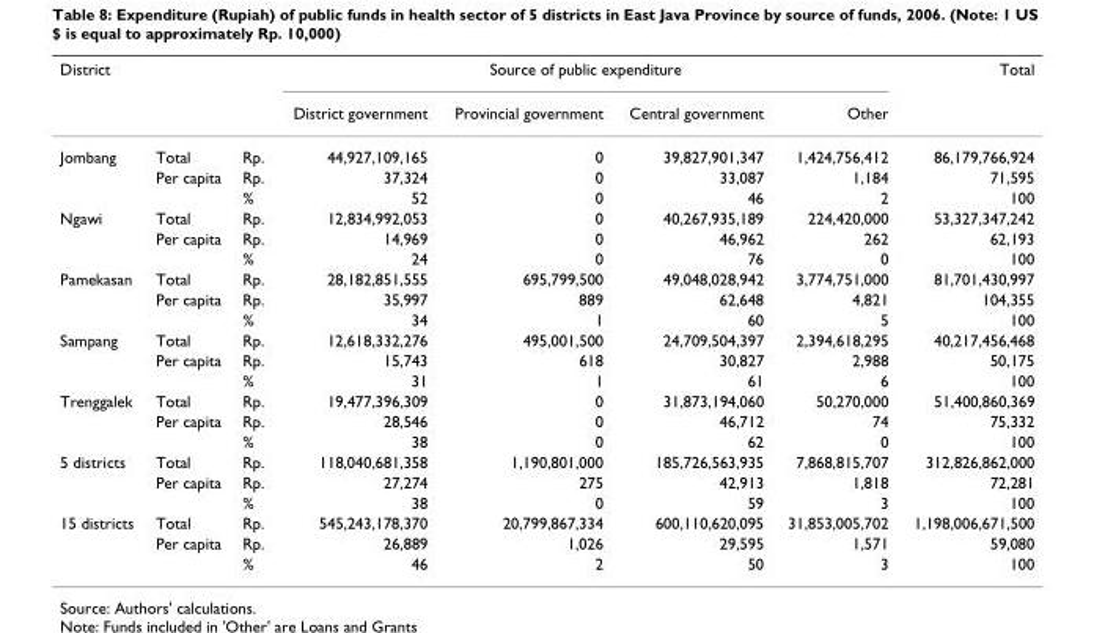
<table><thead><tr><td rowspan="2">District</td><td rowspan="2"></td><td rowspan="2"></td><td colspan="4">Source of public expenditure</td><td rowspan="2">Total</td></tr><tr><td>District government</td><td>Provincial government</td><td>Central government</td><td>Other</td></tr></thead><tbody><tr><td rowspan="3">Jombang</td><td>Total</td><td>Rp.</td><td>44,927,109,165</td><td>0</td><td>39,827,901,347</td><td>1,424,756,412</td><td>86,179,766,924</td></tr><tr><td>Per capita</td><td>Rp.</td><td>37,324</td><td>0</td><td>33,087</td><td>1,184</td><td>71,595</td></tr><tr><td></td><td>%</td><td>52</td><td>0</td><td>46</td><td>2</td><td>100</td></tr><tr><td rowspan="3">Ngawi</td><td>Total</td><td>Rp.</td><td>12,834,992,053</td><td>0</td><td>40,267,935,189</td><td>224,420,000</td><td>53,327,347,242</td></tr><tr><td>Per capita</td><td>Rp.</td><td>14,969</td><td>0</td><td>46,962</td><td>262</td><td>62,193</td></tr><tr><td></td><td>%</td><td>24</td><td>0</td><td>76</td><td>0</td><td>100</td></tr><tr><td rowspan="3">Pamekasan</td><td>Total</td><td>Rp.</td><td>28,182,851,555</td><td>695,799,500</td><td>49,048,028,942</td><td>3,774,751,000</td><td>81,701,430,997</td></tr><tr><td>Per capita</td><td>Rp.</td><td>35,997</td><td>889</td><td>62,648</td><td>4,821</td><td>104,355</td></tr><tr><td></td><td>%</td><td>34</td><td>1</td><td>60</td><td>5</td><td>100</td></tr><tr><td rowspan="3">Sampang</td><td>Total</td><td>Rp.</td><td>12,618,332,276</td><td>495,001,500</td><td>24,709,504,397</td><td>2,394,618,295</td><td>40,217,456,468</td></tr><tr><td>Per capita</td><td>Rp.</td><td>15,743</td><td>618</td><td>30,827</td><td>2,988</td><td>50,175</td></tr><tr><td></td><td>%</td><td>31</td><td>1</td><td>61</td><td>6</td><td>100</td></tr><tr><td rowspan="3">Trenggalek</td><td>Total</td><td>Rp.</td><td>19,477,396,309</td><td>0</td><td>31,873,194,060</td><td>50,270,000</td><td>51,400,860,369</td></tr><tr><td>Per capita</td><td>Rp.</td><td>28,546</td><td>0</td><td>46,712</td><td>74</td><td>75,332</td></tr><tr><td></td><td>%</td><td>38</td><td>0</td><td>62</td><td>0</td><td>100</td></tr><tr><td rowspan="3">5 districts</td><td>Total</td><td>Rp.</td><td>118,040,681,358</td><td>1,190,801,000</td><td>185,726,563,935</td><td>7,868,815,707</td><td>312,826,862,000</td></tr><tr><td>Per capita</td><td>Rp.</td><td>27,274</td><td>275</td><td>42,913</td><td>1,818</td><td>72,281</td></tr><tr><td></td><td>%</td><td>38</td><td>0</td><td>59</td><td>3</td><td>100</td></tr><tr><td rowspan="3">15 districts</td><td>Total</td><td>Rp.</td><td>545,243,178,370</td><td>20,799,867,334</td><td>600,110,620,095</td><td>31,853,005,702</td><td>1,198,006,671,500</td></tr><tr><td>Per capita</td><td>Rp.</td><td>26,889</td><td>1,026</td><td>29,595</td><td>1,571</td><td>59,080</td></tr><tr><td></td><td>%</td><td>46</td><td>2</td><td>50</td><td>3</td><td>100</td></tr></tbody></table>